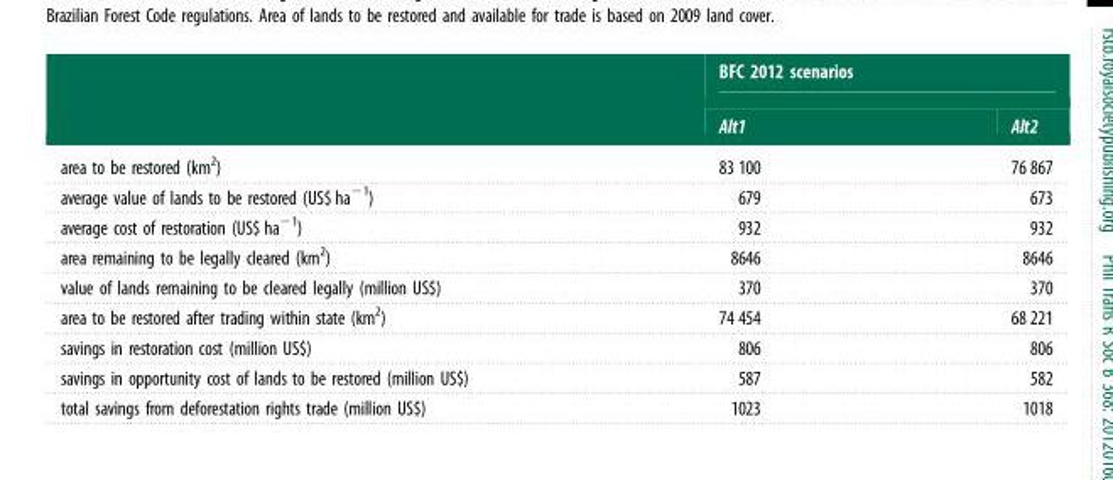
<table><thead><tr><td rowspan="2"></td><td colspan="2">BFC 2012 scenarios</td></tr><tr><td>Alt1</td><td>Alt2</td></tr></thead><tbody><tr><td>area to be restored (km<sup>2</sup>)</td><td>83 100</td><td>76 867</td></tr><tr><td>average value of lands to be restored (US$ ha<sup>−1</sup>)</td><td>679</td><td>673</td></tr><tr><td>average cost of restoration (US$ ha<sup>−1</sup>)</td><td>932</td><td>932</td></tr><tr><td>area remaining to be legally cleared (km<sup>2</sup>)</td><td>8646</td><td>8646</td></tr><tr><td>value of lands remaining to be cleared legally (million US$)</td><td>370</td><td>370</td></tr><tr><td>area to be restored after trading within state (km<sup>2</sup>)</td><td>74 454</td><td>68 221</td></tr><tr><td>savings in restoration cost (million US$)</td><td>806</td><td>806</td></tr><tr><td>savings in opportunity cost of lands to be restored (million US$)</td><td>587</td><td>582</td></tr><tr><td>total savings from deforestation rights trade (million US$)</td><td>1023</td><td>1018</td></tr></tbody></table>